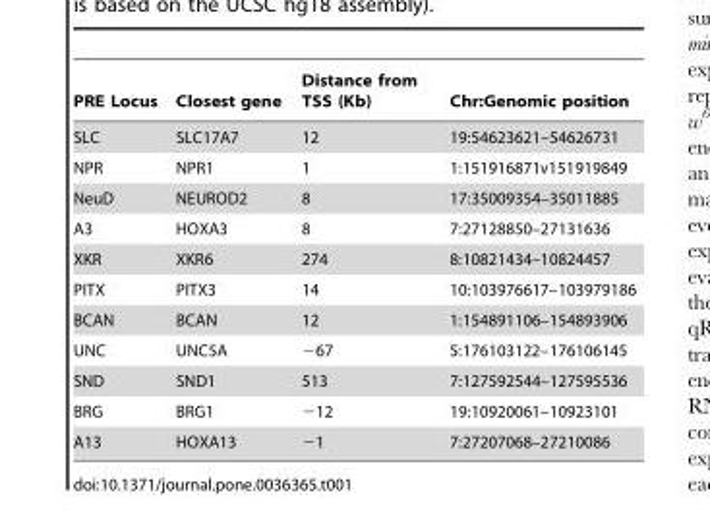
<table><thead><tr><td>PRE Locus</td><td>Closest gene</td><td>Distance from TSS (Kb)</td><td>Chr:Genomic position</td></tr></thead><tbody><tr><td>SLC</td><td>SLC17A7</td><td>12</td><td>19:54623621–54626731</td></tr><tr><td>NPR</td><td>NPR1</td><td>1</td><td>1:151916871v151919849</td></tr><tr><td>NeuD</td><td>NEUROD2</td><td>8</td><td>17:35009354–35011885</td></tr><tr><td>A3</td><td>HOXA3</td><td>8</td><td>7:27128850–27131636</td></tr><tr><td>XKR</td><td>XKR6</td><td>274</td><td>8:10821434–10824457</td></tr><tr><td>PITX</td><td>PITX3</td><td>14</td><td>10:103976617–103979186</td></tr><tr><td>BCAN</td><td>BCAN</td><td>12</td><td>1:154891106–154893906</td></tr><tr><td>UNC</td><td>UNC5A</td><td>−67</td><td>5:176103122–176106145</td></tr><tr><td>SND</td><td>SND1</td><td>513</td><td>7:127592544–127595536</td></tr><tr><td>BRG</td><td>BRG1</td><td>−12</td><td>19:10920061–10923101</td></tr><tr><td>A13</td><td>HOXA13</td><td>−1</td><td>7:27207068–27210086</td></tr></tbody></table>